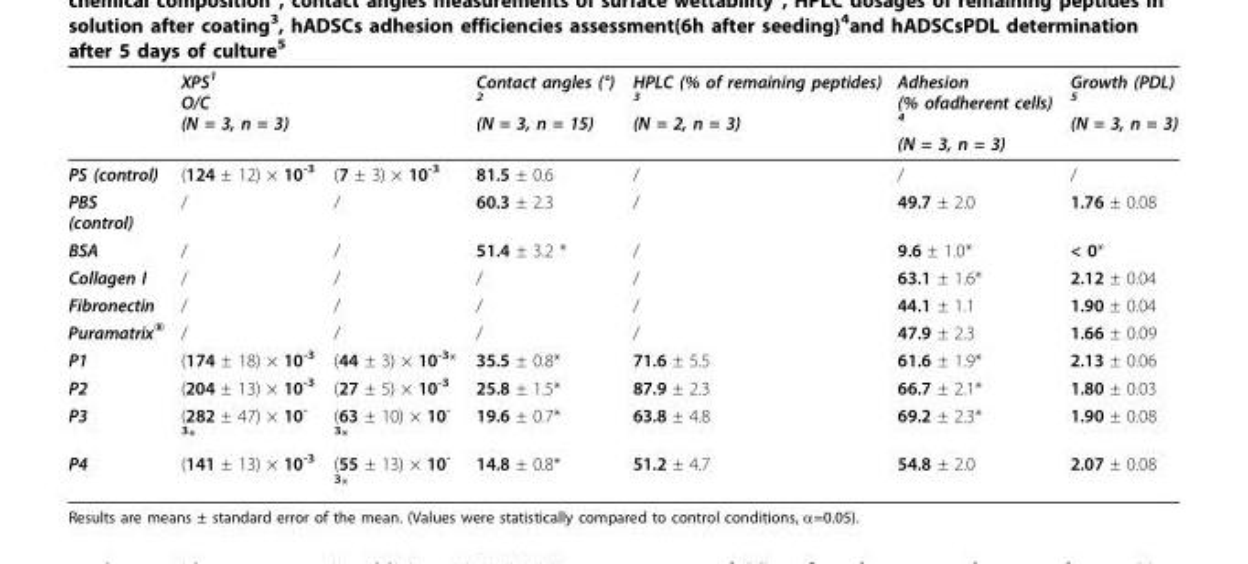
<table><thead><tr><td rowspan="2">PS (control)</td><td colspan="2">XPS<sup>1</sup> O/C (N = 3, n = 3)</td><td rowspan="2">Contact angles (°) <sup>2</sup> (N = 3, n = 15) 81.5 ± 0.6</td><td rowspan="2">HPLC (% of remaining peptides) <sup>3</sup> (N = 2, n = 3) /</td><td rowspan="2">Adhesion (% ofadherent cells) <sup>4</sup> (N = 3, n = 3) /</td><td rowspan="2">Growth (PDL) <sup>5</sup> (N = 3, n = 3) /</td></tr><tr><td>(124 ± 12) × 10<sup>-3</sup></td><td>(7 ± 3) × 10<sup>-3</sup></td></tr></thead><tbody><tr><td>PBS (control)</td><td>/</td><td>/</td><td>60.3 ± 2.3</td><td>/</td><td>49.7 ± 2.0</td><td>1.76 ± 0.08</td></tr><tr><td>BSA</td><td>/</td><td>/</td><td>51.4 ± 3.2 *</td><td>/</td><td>9.6 ± 1.0*</td><td>&lt; 0*</td></tr><tr><td>Collagen I</td><td>/</td><td>/</td><td>/</td><td>/</td><td>63.1 ± 1.6*</td><td>2.12 ± 0.04</td></tr><tr><td>Fibronectin</td><td>/</td><td>/</td><td>/</td><td>/</td><td>44.1 ± 1.1</td><td>1.90 ± 0.04</td></tr><tr><td>Puramatrix®</td><td>/</td><td>/</td><td>/</td><td>/</td><td>47.9 ± 2.3</td><td>1.66 ± 0.09</td></tr><tr><td>P1</td><td>(174 ± 18) × 10<sup>-3</sup></td><td>(44 ± 3) × 10<sup>-3</sup>*</td><td>35.5 ± 0.8*</td><td>71.6 ± 5.5</td><td>61.6 ± 1.9*</td><td>2.13 ± 0.06</td></tr><tr><td>P2</td><td>(204 ± 13) × 10<sup>-3</sup></td><td>(27 ± 5) × 10<sup>-3</sup></td><td>25.8 ± 1.5*</td><td>87.9 ± 2.3</td><td>66.7 ± 2.1*</td><td>1.80 ± 0.03</td></tr><tr><td>P3</td><td>(282 ± 47) × 10<sup>- 3</sup>*</td><td>(63 ± 10) × 10<sup>- 3</sup>*</td><td>19.6 ± 0.7*</td><td>63.8 ± 4.8</td><td>69.2 ± 2.3*</td><td>1.90 ± 0.08</td></tr><tr><td>P4</td><td>(141 ± 13) × 10<sup>-3</sup></td><td>(55 ± 13) × 10<sup>- 3</sup>*</td><td>14.8 ± 0.8*</td><td>51.2 ± 4.7</td><td>54.8 ± 2.0</td><td>2.07 ± 0.08</td></tr></tbody></table>